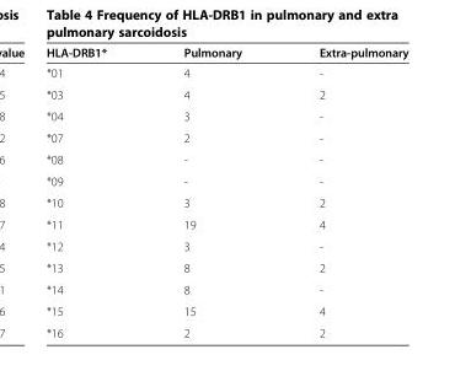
<table><thead><tr><td>HLA-DRB1*</td><td>Pulmonary</td><td>Extra-pulmonary</td></tr></thead><tbody><tr><td>*01</td><td>4</td><td>-</td></tr><tr><td>*03</td><td>4</td><td>2</td></tr><tr><td>*04</td><td>3</td><td>-</td></tr><tr><td>*07</td><td>2</td><td>-</td></tr><tr><td>*08</td><td>-</td><td>-</td></tr><tr><td>*09</td><td>-</td><td>-</td></tr><tr><td>*10</td><td>3</td><td>2</td></tr><tr><td>*11</td><td>19</td><td>4</td></tr><tr><td>*12</td><td>3</td><td>-</td></tr><tr><td>*13</td><td>8</td><td>2</td></tr><tr><td>*14</td><td>8</td><td>-</td></tr><tr><td>*15</td><td>15</td><td>4</td></tr><tr><td>*16</td><td>2</td><td>2</td></tr></tbody></table>